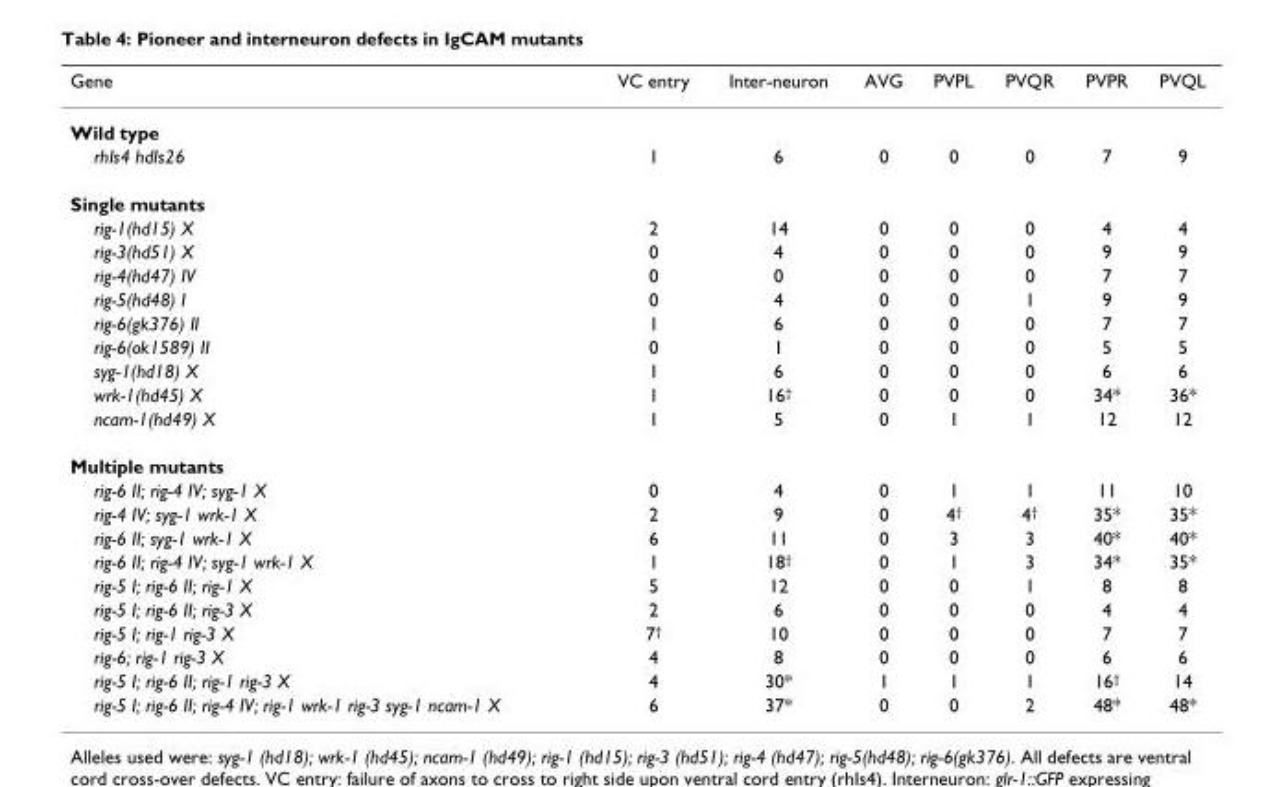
<table><thead><tr><td>Gene</td><td>VC entry</td><td>Inter-neuron</td><td>AVG</td><td>PVPL</td><td>PVQR</td><td>PVPR</td><td>PVQL</td></tr></thead><tbody><tr><td colspan="8">Wild type</td></tr><tr><td>rhIs4 hdIs26</td><td>1</td><td>6</td><td>0</td><td>0</td><td>0</td><td>7</td><td>9</td></tr><tr><td colspan="8">Single mutants</td></tr><tr><td>rig-1(hd15) X</td><td>2</td><td>14</td><td>0</td><td>0</td><td>0</td><td>4</td><td>4</td></tr><tr><td>rig-3(hd51) X</td><td>0</td><td>4</td><td>0</td><td>0</td><td>0</td><td>9</td><td>9</td></tr><tr><td>rig-4(hd47) IV</td><td>0</td><td>0</td><td>0</td><td>0</td><td>0</td><td>7</td><td>7</td></tr><tr><td>rig-5(hd48) I</td><td>0</td><td>4</td><td>0</td><td>0</td><td>1</td><td>9</td><td>9</td></tr><tr><td>rig-6(gk376) II</td><td>1</td><td>6</td><td>0</td><td>0</td><td>0</td><td>7</td><td>7</td></tr><tr><td>rig-6(ok1589) II</td><td>0</td><td>1</td><td>0</td><td>0</td><td>0</td><td>5</td><td>5</td></tr><tr><td>syg-1(hd18) X</td><td>1</td><td>6</td><td>0</td><td>0</td><td>0</td><td>6</td><td>6</td></tr><tr><td>wrk-1(hd45) X</td><td>1</td><td>16<sup>†</sup></td><td>0</td><td>0</td><td>0</td><td>34*</td><td>36*</td></tr><tr><td>ncam-1(hd49) X</td><td>1</td><td>5</td><td>0</td><td>1</td><td>1</td><td>12</td><td>12</td></tr><tr><td colspan="8">Multiple mutants</td></tr><tr><td>rig-6 II; rig-4 IV; syg-1 X</td><td>0</td><td>4</td><td>0</td><td>1</td><td>1</td><td>11</td><td>10</td></tr><tr><td>rig-4 IV; syg-1 wrk-1 X</td><td>2</td><td>9</td><td>0</td><td>4<sup>†</sup></td><td>4<sup>†</sup></td><td>35*</td><td>35*</td></tr><tr><td>rig-6 II; syg-1 wrk-1 X</td><td>6</td><td>11</td><td>0</td><td>3</td><td>3</td><td>40*</td><td>40*</td></tr><tr><td>rig-6 II; rig-4 IV; syg-1 wrk-1 X</td><td>1</td><td>18<sup>†</sup></td><td>0</td><td>1</td><td>3</td><td>34*</td><td>35*</td></tr><tr><td>rig-5 I; rig-6 II; rig-1 X</td><td>5</td><td>12</td><td>0</td><td>0</td><td>1</td><td>8</td><td>8</td></tr><tr><td>rig-5 I; rig-6 II; rig-3 X</td><td>2</td><td>6</td><td>0</td><td>0</td><td>0</td><td>4</td><td>4</td></tr><tr><td>rig-5 I; rig-1 rig-3 X</td><td>7<sup>†</sup></td><td>10</td><td>0</td><td>0</td><td>0</td><td>7</td><td>7</td></tr><tr><td>rig-6; rig-1 rig-3 X</td><td>4</td><td>8</td><td>0</td><td>0</td><td>0</td><td>6</td><td>6</td></tr><tr><td>rig-5 I; rig-6 II; rig-1 rig-3 X</td><td>4</td><td>30*</td><td>1</td><td>1</td><td>1</td><td>16<sup>†</sup></td><td>14</td></tr><tr><td>rig-5 I; rig-6 II; rig-4 IV; rig-1 wrk-1 rig-3 syg-1 ncam-1 X</td><td>6</td><td>37*</td><td>0</td><td>0</td><td>2</td><td>48*</td><td>48*</td></tr></tbody></table>